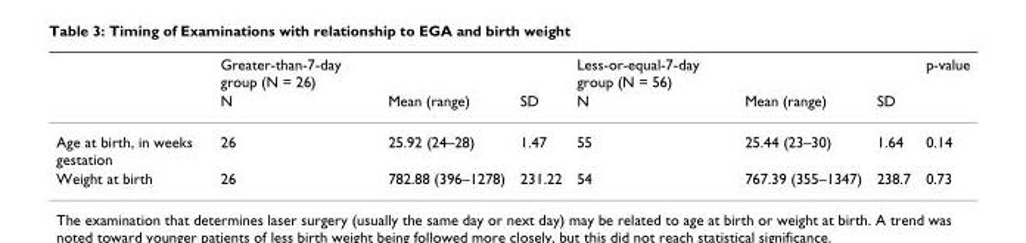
<table><thead><tr><td rowspan="2"></td><td rowspan="2">Greater-than-7-day group (N = 26) N</td><td rowspan="2">Mean (range)</td><td rowspan="2">SD</td><td rowspan="2">Less-or-equal-7-day group (N = 56) N</td><td rowspan="2">Mean (range)</td><td rowspan="2">SD</td><td rowspan="2">p-value</td></tr><tr></tr></thead><tbody><tr><td>Age at birth, in weeks gestation</td><td>26</td><td>25.92 (24–28)</td><td>1.47</td><td>55</td><td>25.44 (23–30)</td><td>1.64</td><td>0.14</td></tr><tr><td>Weight at birth</td><td>26</td><td>782.88 (396–1278)</td><td>231.22</td><td>54</td><td>767.39 (355–1347)</td><td>238.7</td><td>0.73</td></tr></tbody></table>